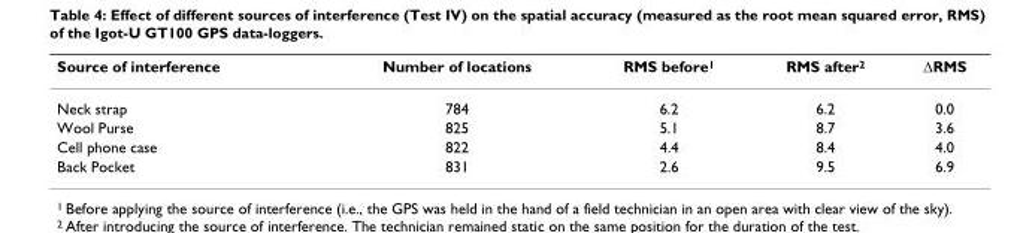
<table><thead><tr><td>Source of interference</td><td>Number of locations</td><td>RMS before<sup>1</sup></td><td>RMS after<sup>2</sup></td><td>ΔRMS</td></tr></thead><tbody><tr><td>Neck strap</td><td>784</td><td>6.2</td><td>6.2</td><td>0.0</td></tr><tr><td>Wool Purse</td><td>825</td><td>5.1</td><td>8.7</td><td>3.6</td></tr><tr><td>Cell phone case</td><td>822</td><td>4.4</td><td>8.4</td><td>4.0</td></tr><tr><td>Back Pocket</td><td>831</td><td>2.6</td><td>9.5</td><td>6.9</td></tr></tbody></table>